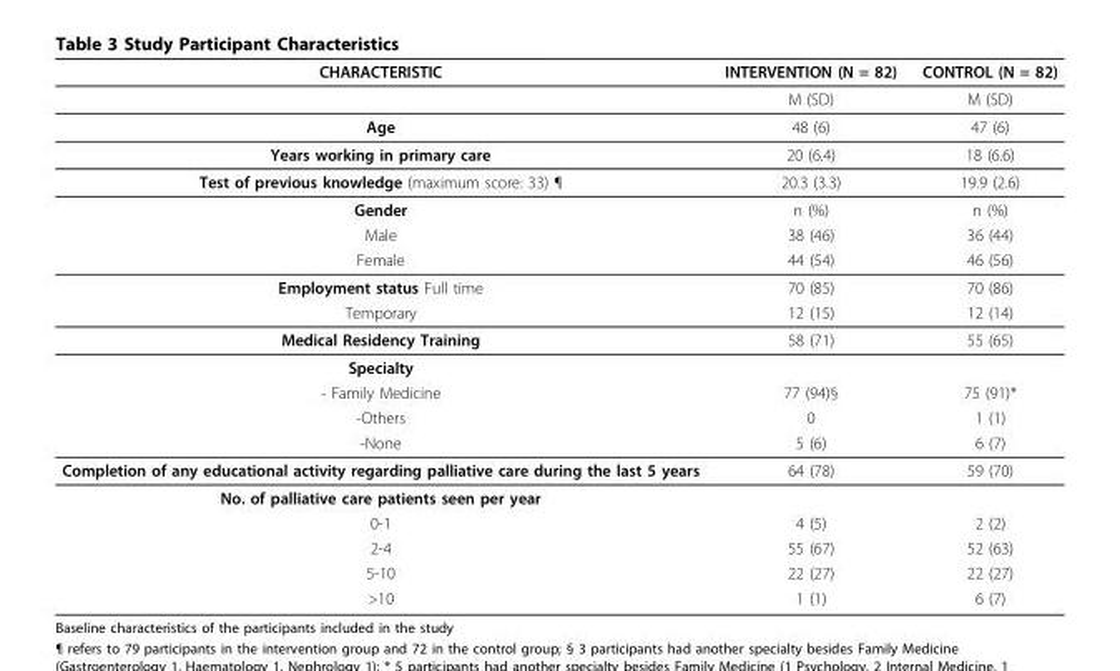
<table><thead><tr><td>CHARACTERISTIC</td><td>INTERVENTION (N = 82)</td><td>CONTROL (N = 82)</td></tr></thead><tbody><tr><td></td><td>M (SD)</td><td>M (SD)</td></tr><tr><td>Age</td><td>48 (6)</td><td>47 (6)</td></tr><tr><td>Years working in primary care</td><td>20 (6.4)</td><td>18 (6.6)</td></tr><tr><td>Test of previous knowledge (maximum score: 33) ¶</td><td>20.3 (3.3)</td><td>19.9 (2.6)</td></tr><tr><td>Gender</td><td>n (%)</td><td>n (%)</td></tr><tr><td>Male</td><td>38 (46)</td><td>36 (44)</td></tr><tr><td>Female</td><td>44 (54)</td><td>46 (56)</td></tr><tr><td>Employment status Full time</td><td>70 (85)</td><td>70 (86)</td></tr><tr><td>Temporary</td><td>12 (15)</td><td>12 (14)</td></tr><tr><td>Medical Residency Training</td><td>58 (71)</td><td>55 (65)</td></tr><tr><td colspan="3">Specialty</td></tr><tr><td>- Family Medicine</td><td>77 (94)§</td><td>75 (91)*</td></tr><tr><td>-Others</td><td>0</td><td>1 (1)</td></tr><tr><td>-None</td><td>5 (6)</td><td>6 (7)</td></tr><tr><td>Completion of any educational activity regarding palliative care during the last 5 years</td><td>64 (78)</td><td>59 (70)</td></tr><tr><td colspan="3">No. of palliative care patients seen per year</td></tr><tr><td>0-1</td><td>4 (5)</td><td>2 (2)</td></tr><tr><td>2-4</td><td>55 (67)</td><td>52 (63)</td></tr><tr><td>5-10</td><td>22 (27)</td><td>22 (27)</td></tr><tr><td>&gt;10</td><td>1 (1)</td><td>6 (7)</td></tr></tbody></table>